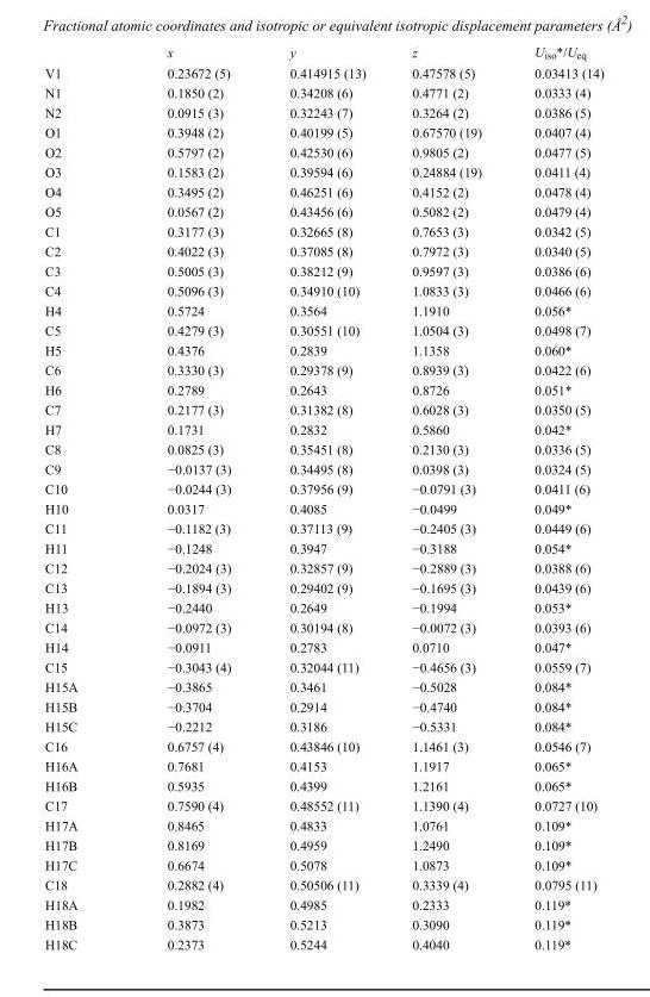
<table><thead><tr><td></td><td>x</td><td>y</td><td>z</td><td>U<sub>iso</sub>*/U<sub>eq</sub></td></tr></thead><tbody><tr><td>V1</td><td>0.23672 (5)</td><td>0.414915 (13)</td><td>0.47578 (5)</td><td>0.03413 (14)</td></tr><tr><td>N1</td><td>0.1850 (2)</td><td>0.34208 (6)</td><td>0.4771 (2)</td><td>0.0333 (4)</td></tr><tr><td>N2</td><td>0.0915 (3)</td><td>0.32243 (7)</td><td>0.3264 (2)</td><td>0.0386 (5)</td></tr><tr><td>O1</td><td>0.3948 (2)</td><td>0.40199 (5)</td><td>0.67570 (19)</td><td>0.0407 (4)</td></tr><tr><td>O2</td><td>0.5797 (2)</td><td>0.42530 (6)</td><td>0.9805 (2)</td><td>0.0477 (5)</td></tr><tr><td>O3</td><td>0.1583 (2)</td><td>0.39594 (6)</td><td>0.24884 (19)</td><td>0.0411 (4)</td></tr><tr><td>O4</td><td>0.3495 (2)</td><td>0.46251 (6)</td><td>0.4152 (2)</td><td>0.0478 (4)</td></tr><tr><td>O5</td><td>0.0567 (2)</td><td>0.43456 (6)</td><td>0.5082 (2)</td><td>0.0479 (4)</td></tr><tr><td>C1</td><td>0.3177 (3)</td><td>0.32665 (8)</td><td>0.7653 (3)</td><td>0.0342 (5)</td></tr><tr><td>C2</td><td>0.4022 (3)</td><td>0.37085 (8)</td><td>0.7972 (3)</td><td>0.0340 (5)</td></tr><tr><td>C3</td><td>0.5005 (3)</td><td>0.38212 (9)</td><td>0.9597 (3)</td><td>0.0386 (6)</td></tr><tr><td>C4</td><td>0.5096 (3)</td><td>0.34910 (10)</td><td>1.0833 (3)</td><td>0.0466 (6)</td></tr><tr><td>H4</td><td>0.5724</td><td>0.3564</td><td>1.1910</td><td>0.056*</td></tr><tr><td>C5</td><td>0.4279 (3)</td><td>0.30551 (10)</td><td>1.0504 (3)</td><td>0.0498 (7)</td></tr><tr><td>H5</td><td>0.4376</td><td>0.2839</td><td>1.1358</td><td>0.060*</td></tr><tr><td>C6</td><td>0.3330 (3)</td><td>0.29378 (9)</td><td>0.8939 (3)</td><td>0.0422 (6)</td></tr><tr><td>H6</td><td>0.2789</td><td>0.2643</td><td>0.8726</td><td>0.051*</td></tr><tr><td>C7</td><td>0.2177 (3)</td><td>0.31382 (8)</td><td>0.6028 (3)</td><td>0.0350 (5)</td></tr><tr><td>H7</td><td>0.1731</td><td>0.2832</td><td>0.5860</td><td>0.042*</td></tr><tr><td>C8</td><td>0.0825 (3)</td><td>0.35451 (8)</td><td>0.2130 (3)</td><td>0.0336 (5)</td></tr><tr><td>C9</td><td>−0.0137 (3)</td><td>0.34495 (8)</td><td>0.0398 (3)</td><td>0.0324 (5)</td></tr><tr><td>C10</td><td>−0.0244 (3)</td><td>0.37956 (9)</td><td>−0.0791 (3)</td><td>0.0411 (6)</td></tr><tr><td>H10</td><td>0.0317</td><td>0.4085</td><td>−0.0499</td><td>0.049*</td></tr><tr><td>C11</td><td>−0.1182 (3)</td><td>0.37113 (9)</td><td>−0.2405 (3)</td><td>0.0449 (6)</td></tr><tr><td>H11</td><td>−0.1248</td><td>0.3947</td><td>−0.3188</td><td>0.054*</td></tr><tr><td>C12</td><td>−0.2024 (3)</td><td>0.32857 (9)</td><td>−0.2889 (3)</td><td>0.0388 (6)</td></tr><tr><td>C13</td><td>−0.1894 (3)</td><td>0.29402 (9)</td><td>−0.1695 (3)</td><td>0.0439 (6)</td></tr><tr><td>H13</td><td>−0.2440</td><td>0.2649</td><td>−0.1994</td><td>0.053*</td></tr><tr><td>C14</td><td>−0.0972 (3)</td><td>0.30194 (8)</td><td>−0.0072 (3)</td><td>0.0393 (6)</td></tr><tr><td>H14</td><td>−0.0911</td><td>0.2783</td><td>0.0710</td><td>0.047*</td></tr><tr><td>C15</td><td>−0.3043 (4)</td><td>0.32044 (11)</td><td>−0.4656 (3)</td><td>0.0559 (7)</td></tr><tr><td>H15A</td><td>−0.3865</td><td>0.3461</td><td>−0.5028</td><td>0.084*</td></tr><tr><td>H15B</td><td>−0.3704</td><td>0.2914</td><td>−0.4740</td><td>0.084*</td></tr><tr><td>H15C</td><td>−0.2212</td><td>0.3186</td><td>−0.5331</td><td>0.084*</td></tr><tr><td>C16</td><td>0.6757 (4)</td><td>0.43846 (10)</td><td>1.1461 (3)</td><td>0.0546 (7)</td></tr><tr><td>H16A</td><td>0.7681</td><td>0.4153</td><td>1.1917</td><td>0.065*</td></tr><tr><td>H16B</td><td>0.5935</td><td>0.4399</td><td>1.2161</td><td>0.065*</td></tr><tr><td>C17</td><td>0.7590 (4)</td><td>0.48552 (11)</td><td>1.1390 (4)</td><td>0.0727 (10)</td></tr><tr><td>H17A</td><td>0.8465</td><td>0.4833</td><td>1.0761</td><td>0.109*</td></tr><tr><td>H17B</td><td>0.8169</td><td>0.4959</td><td>1.2490</td><td>0.109*</td></tr><tr><td>H17C</td><td>0.6674</td><td>0.5078</td><td>1.0873</td><td>0.109*</td></tr><tr><td>C18</td><td>0.2882 (4)</td><td>0.50506 (11)</td><td>0.3339 (4)</td><td>0.0795 (11)</td></tr><tr><td>H18A</td><td>0.1982</td><td>0.4985</td><td>0.2333</td><td>0.119*</td></tr><tr><td>H18B</td><td>0.3873</td><td>0.5213</td><td>0.3090</td><td>0.119*</td></tr><tr><td>H18C</td><td>0.2373</td><td>0.5244</td><td>0.4040</td><td>0.119*</td></tr></tbody></table>